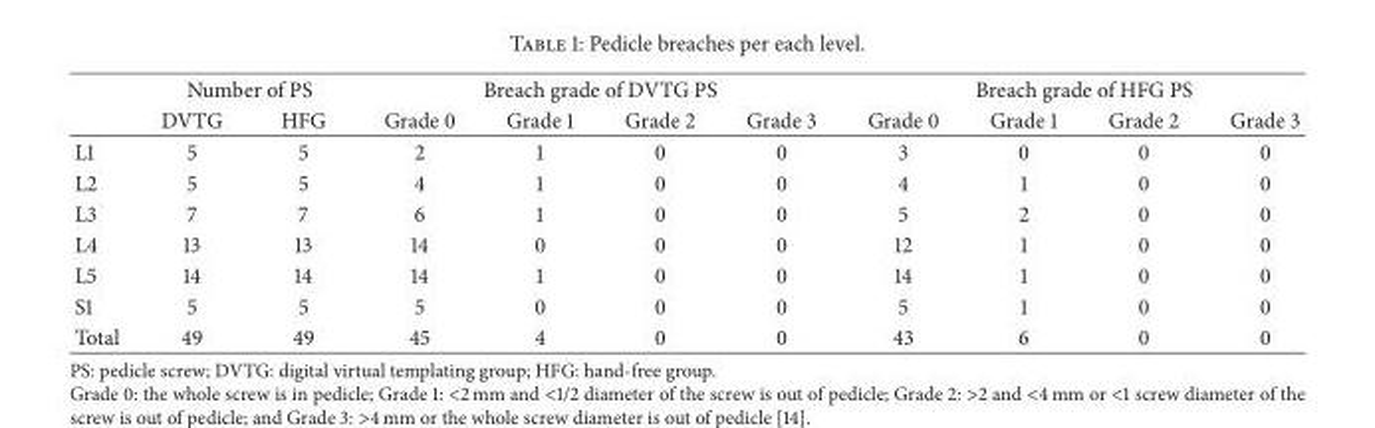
<table><thead><tr><td rowspan="2"></td><td colspan="2">Number of PS</td><td colspan="4">Breach grade of DVTG PS</td><td colspan="4">Breach grade of HFG PS</td></tr><tr><td>DVTG</td><td>HFG</td><td>Grade 0</td><td>Grade 1</td><td>Grade 2</td><td>Grade 3</td><td>Grade 0</td><td>Grade 1</td><td>Grade 2</td><td>Grade 3</td></tr></thead><tbody><tr><td>L1</td><td>5</td><td>5</td><td>2</td><td>1</td><td>0</td><td>0</td><td>3</td><td>0</td><td>0</td><td>0</td></tr><tr><td>L2</td><td>5</td><td>5</td><td>4</td><td>1</td><td>0</td><td>0</td><td>4</td><td>1</td><td>0</td><td>0</td></tr><tr><td>L3</td><td>7</td><td>7</td><td>6</td><td>1</td><td>0</td><td>0</td><td>5</td><td>2</td><td>0</td><td>0</td></tr><tr><td>L4</td><td>13</td><td>13</td><td>14</td><td>0</td><td>0</td><td>0</td><td>12</td><td>1</td><td>0</td><td>0</td></tr><tr><td>L5</td><td>14</td><td>14</td><td>14</td><td>1</td><td>0</td><td>0</td><td>14</td><td>1</td><td>0</td><td>0</td></tr><tr><td>S1</td><td>5</td><td>5</td><td>5</td><td>0</td><td>0</td><td>0</td><td>5</td><td>1</td><td>0</td><td>0</td></tr><tr><td>Total</td><td>49</td><td>49</td><td>45</td><td>4</td><td>0</td><td>0</td><td>43</td><td>6</td><td>0</td><td>0</td></tr></tbody></table>